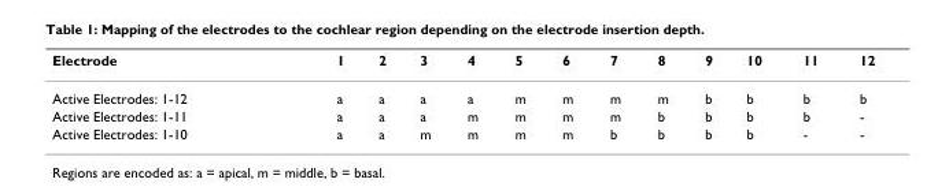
<table><thead><tr><td>Electrode</td><td>1</td><td>2</td><td>3</td><td>4</td><td>5</td><td>6</td><td>7</td><td>8</td><td>9</td><td>10</td><td>11</td><td>12</td></tr></thead><tbody><tr><td>Active Electrodes: 1-12</td><td>a</td><td>a</td><td>a</td><td>a</td><td>m</td><td>m</td><td>m</td><td>m</td><td>b</td><td>b</td><td>b</td><td>b</td></tr><tr><td>Active Electrodes: 1-11</td><td>a</td><td>a</td><td>a</td><td>m</td><td>m</td><td>m</td><td>m</td><td>b</td><td>b</td><td>b</td><td>b</td><td>-</td></tr><tr><td>Active Electrodes: 1-10</td><td>a</td><td>a</td><td>m</td><td>m</td><td>m</td><td>m</td><td>b</td><td>b</td><td>b</td><td>b</td><td>-</td><td>-</td></tr></tbody></table>